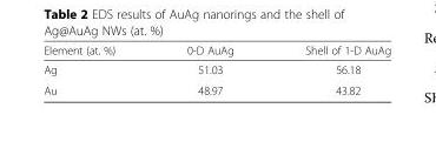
<table><thead><tr><td>Element (at. %)</td><td>0-D AuAg</td><td>Shell of 1-D AuAg</td></tr></thead><tbody><tr><td>Ag</td><td>51.03</td><td>56.18</td></tr><tr><td>Au</td><td>48.97</td><td>43.82</td></tr></tbody></table>